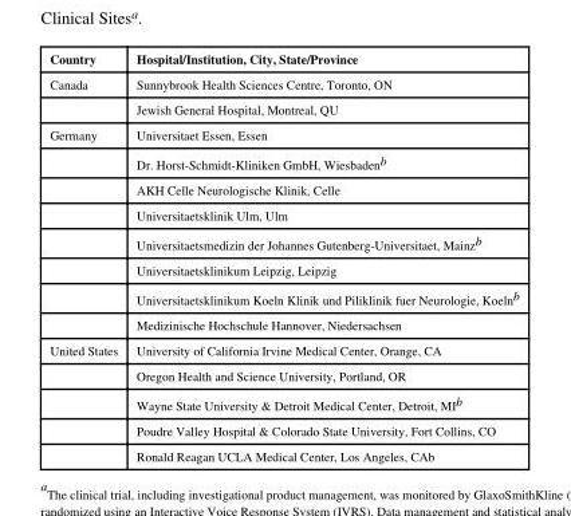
<table><thead><tr><td>Country</td><td>Hospital/Institution, City, State/Province</td></tr></thead><tbody><tr><td rowspan="2">Canada</td><td>Sunnybrook Health Sciences Centre, Toronto, ON</td></tr><tr><td>Jewish General Hospital, Montreal, QU</td></tr><tr><td rowspan="8">Germany</td><td>Universitaet Essen, Essen</td></tr><tr><td>Dr. Horst-Schmidt-Kliniken GmbH, Wiesbaden<sup>b</sup></td></tr><tr><td>AKH Celle Neurologische Klinik, Celle</td></tr><tr><td>Universitaetsklinik Ulm, Ulm</td></tr><tr><td>Universitaetsmedizin der Johannes Gutenberg-Universitaet, Mainz<sup>b</sup></td></tr><tr><td>Universitaetsklinikum Leipzig, Leipzig</td></tr><tr><td>Universitaetsklinikum Koeln Klinik und Piliklinik fuer Neurologie, Koeln<sup>b</sup></td></tr><tr><td>Medizinische Hochschule Hannover, Niedersachsen</td></tr><tr><td rowspan="5">United States</td><td>University of California Irvine Medical Center, Orange, CA</td></tr><tr><td>Oregon Health and Science University, Portland, OR</td></tr><tr><td>Wayne State University &amp; Detroit Medical Center, Detroit, MI<sup>b</sup></td></tr><tr><td>Poudre Valley Hospital &amp; Colorado State University, Fort Collins, CO</td></tr><tr><td>Ronald Reagan UCLA Medical Center, Los Angeles, CAb</td></tr></tbody></table>